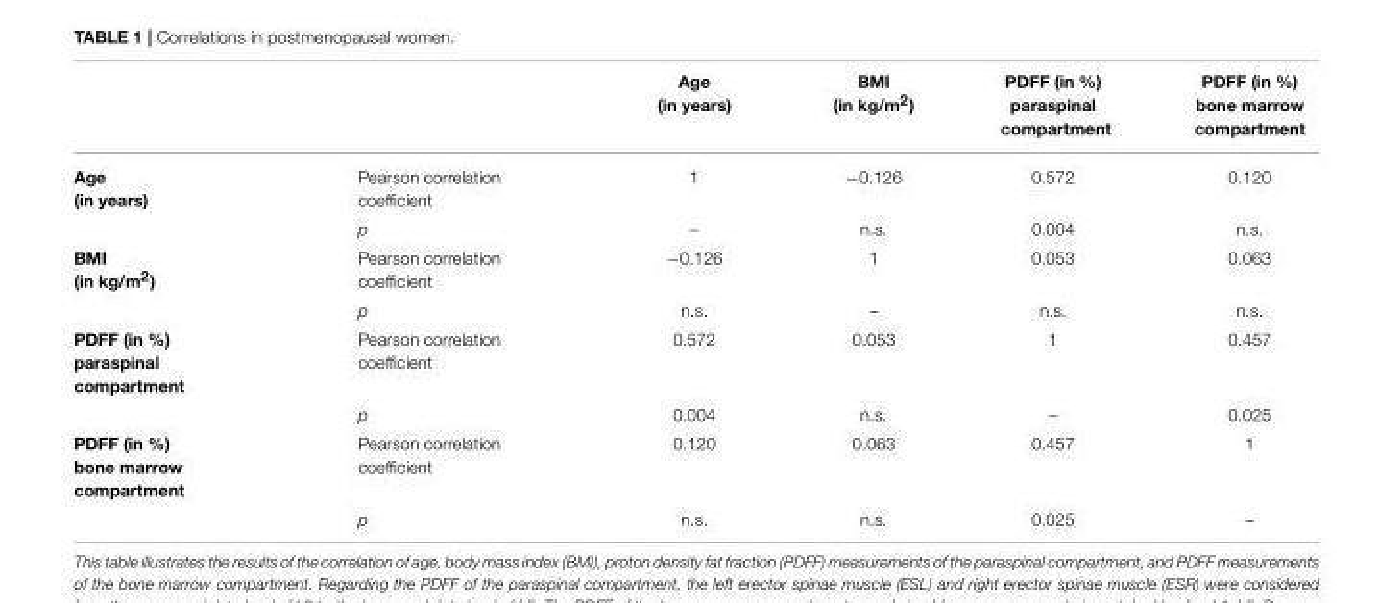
<table><thead><tr><td></td><td></td><td>Age (in years)</td><td>BMI (in kg/m<sup>2</sup>)</td><td>PDFF (in %) paraspinal compartment</td><td>PDFF (in %) bone marrow compartment</td></tr></thead><tbody><tr><td rowspan="2">Age (in years)</td><td>Pearson correlation coefficient</td><td>1</td><td>−0.126</td><td>0.572</td><td>0.120</td></tr><tr><td>p</td><td>–</td><td>n.s.</td><td>0.004</td><td>n.s.</td></tr><tr><td rowspan="2">BMI (in kg/m<sup>2</sup>)</td><td>Pearson correlation coefficient</td><td>−0.126</td><td>1</td><td>0.053</td><td>0.063</td></tr><tr><td>p</td><td>n.s.</td><td>–</td><td>n.s.</td><td>n.s.</td></tr><tr><td rowspan="2">PDFF (in %) paraspinal compartment</td><td>Pearson correlation coefficient</td><td>0.572</td><td>0.053</td><td>1</td><td>0.457</td></tr><tr><td>p</td><td>0.004</td><td>n.s.</td><td>–</td><td>0.025</td></tr><tr><td rowspan="2">PDFF (in %) bone marrow compartment</td><td>Pearson correlation coefficient</td><td>0.120</td><td>0.063</td><td>0.457</td><td>1</td></tr><tr><td>p</td><td>n.s.</td><td>n.s.</td><td>0.025</td><td>–</td></tr></tbody></table>